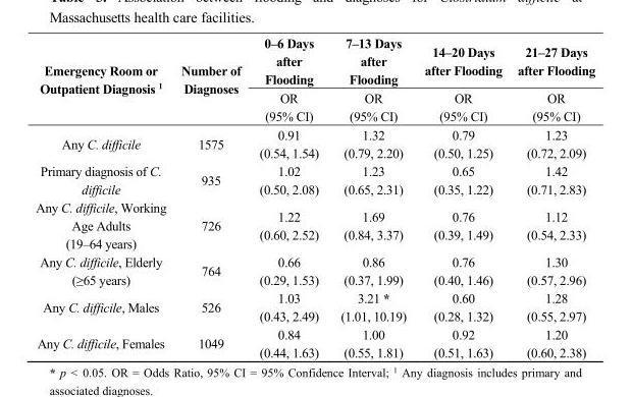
<table><thead><tr><td rowspan="2">Emergency Room or Outpatient Diagnosis <sup>1</sup></td><td rowspan="2">Number of Diagnoses</td><td rowspan="2">0–6 Days after Flooding OR (95% CI)</td><td rowspan="2">7–13 Days after Flooding OR (95% CI)</td><td rowspan="2">14–20 Days after Flooding OR (95% CI)</td><td rowspan="2">21–27 Days after Flooding OR (95% CI)</td></tr><tr></tr></thead><tbody><tr><td>Any C. difficile</td><td>1575</td><td>0.91 (0.54, 1.54)</td><td>1.32 (0.79, 2.20)</td><td>0.79 (0.50, 1.25)</td><td>1.23 (0.72, 2.09)</td></tr><tr><td>Primary diagnosis of C. difficile</td><td>935</td><td>1.02 (0.50, 2.08)</td><td>1.23 (0.65, 2.31)</td><td>0.65 (0.35, 1.22)</td><td>1.42 (0.71, 2.83)</td></tr><tr><td>Any C. difficile, Working Age Adults (19–64 years)</td><td>726</td><td>1.22 (0.60, 2.52)</td><td>1.69 (0.84, 3.37)</td><td>0.76 (0.39, 1.49)</td><td>1.12 (0.54, 2.33)</td></tr><tr><td>Any C. difficile, Elderly (≥65 years)</td><td>764</td><td>0.66 (0.29, 1.53)</td><td>0.86 (0.37, 1.99)</td><td>0.76 (0.40, 1.46)</td><td>1.30 (0.57, 2.96)</td></tr><tr><td>Any C. difficile, Males</td><td>526</td><td>1.03 (0.43, 2.49)</td><td>3.21 * (1.01, 10.19)</td><td>0.60 (0.28, 1.32)</td><td>1.28 (0.55, 2.97)</td></tr><tr><td>Any C. difficile, Females</td><td>1049</td><td>0.84 (0.44, 1.63)</td><td>1.00 (0.55, 1.81)</td><td>0.92 (0.51, 1.63)</td><td>1.20 (0.60, 2.38)</td></tr></tbody></table>